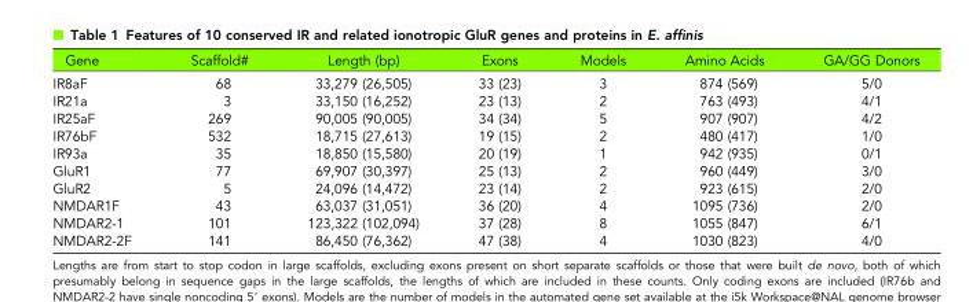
<table><thead><tr><td>Gene</td><td>Scaffold#</td><td>Length (bp)</td><td>Exons</td><td>Models</td><td>Amino Acids</td><td>GA/GG Donors</td></tr></thead><tbody><tr><td>IR8aF</td><td>68</td><td>33,279 (26,505)</td><td>33 (23)</td><td>3</td><td>874 (569)</td><td>5/0</td></tr><tr><td>IR21a</td><td>3</td><td>33,150 (16,252)</td><td>23 (13)</td><td>2</td><td>763 (493)</td><td>4/1</td></tr><tr><td>IR25aF</td><td>269</td><td>90,005 (90,005)</td><td>34 (34)</td><td>5</td><td>907 (907)</td><td>4/2</td></tr><tr><td>IR76bF</td><td>532</td><td>18,715 (27,613)</td><td>19 (15)</td><td>2</td><td>480 (417)</td><td>1/0</td></tr><tr><td>IR93a</td><td>35</td><td>18,850 (15,580)</td><td>20 (19)</td><td>1</td><td>942 (935)</td><td>0/1</td></tr><tr><td>GluR1</td><td>77</td><td>69,907 (30,397)</td><td>25 (13)</td><td>2</td><td>960 (449)</td><td>3/0</td></tr><tr><td>GluR2</td><td>5</td><td>24,096 (14,472)</td><td>23 (14)</td><td>2</td><td>923 (615)</td><td>2/0</td></tr><tr><td>NMDAR1F</td><td>43</td><td>63,037 (31,051)</td><td>36 (20)</td><td>4</td><td>1095 (736)</td><td>2/0</td></tr><tr><td>NMDAR2-1</td><td>101</td><td>123,322 (102,094)</td><td>37 (28)</td><td>8</td><td>1055 (847)</td><td>6/1</td></tr><tr><td>NMDAR2-2F</td><td>141</td><td>86,450 (76,362)</td><td>47 (38)</td><td>4</td><td>1030 (823)</td><td>4/0</td></tr></tbody></table>